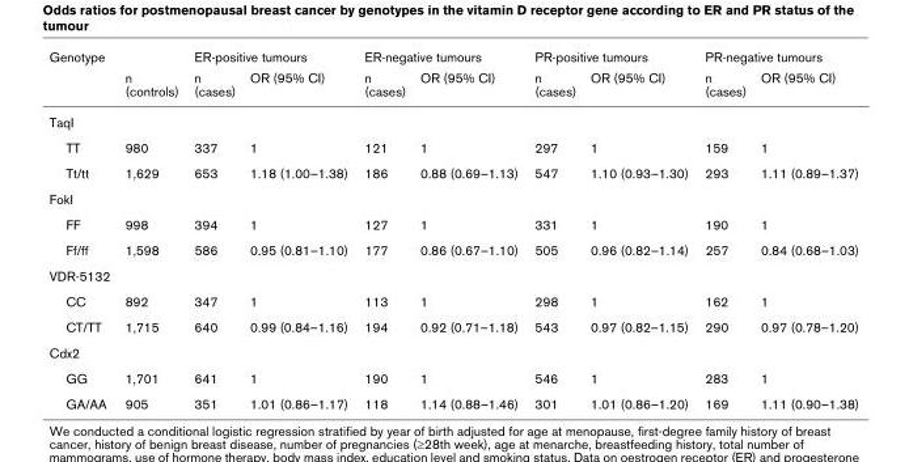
<table><thead><tr><td rowspan="2">Genotype</td><td rowspan="2">n (controls)</td><td colspan="2">ER-positive tumours</td><td colspan="2">ER-negative tumours</td><td colspan="2">PR-positive tumours</td><td colspan="2">PR-negative tumours</td></tr><tr><td>n (cases)</td><td>OR (95% CI)</td><td>n (cases)</td><td>OR (95% CI)</td><td>n (cases)</td><td>OR (95% CI)</td><td>n (cases)</td><td>OR (95% CI)</td></tr></thead><tbody><tr><td colspan="10">TaqI</td></tr><tr><td>TT</td><td>980</td><td>337</td><td>1</td><td>121</td><td>1</td><td>297</td><td>1</td><td>159</td><td>1</td></tr><tr><td>Tt/tt</td><td>1,629</td><td>653</td><td>1.18 (1.00–1.38)</td><td>186</td><td>0.88 (0.69–1.13)</td><td>547</td><td>1.10 (0.93–1.30)</td><td>293</td><td>1.11 (0.89–1.37)</td></tr><tr><td colspan="10">FokI</td></tr><tr><td>FF</td><td>998</td><td>394</td><td>1</td><td>127</td><td>1</td><td>331</td><td>1</td><td>190</td><td>1</td></tr><tr><td>Ff/ff</td><td>1,598</td><td>586</td><td>0.95 (0.81–1.10)</td><td>177</td><td>0.86 (0.67–1.10)</td><td>505</td><td>0.96 (0.82–1.14)</td><td>257</td><td>0.84 (0.68–1.03)</td></tr><tr><td colspan="10">VDR-5132</td></tr><tr><td>CC</td><td>892</td><td>347</td><td>1</td><td>113</td><td>1</td><td>298</td><td>1</td><td>162</td><td>1</td></tr><tr><td>CT/TT</td><td>1,715</td><td>640</td><td>0.99 (0.84–1.16)</td><td>194</td><td>0.92 (0.71–1.18)</td><td>543</td><td>0.97 (0.82–1.15)</td><td>290</td><td>0.97 (0.78–1.20)</td></tr><tr><td colspan="10">Cdx2</td></tr><tr><td>GG</td><td>1,701</td><td>641</td><td>1</td><td>190</td><td>1</td><td>546</td><td>1</td><td>283</td><td>1</td></tr><tr><td>GA/AA</td><td>905</td><td>351</td><td>1.01 (0.86–1.17)</td><td>118</td><td>1.14 (0.88–1.46)</td><td>301</td><td>1.01 (0.86–1.20)</td><td>169</td><td>1.11 (0.90–1.38)</td></tr></tbody></table>